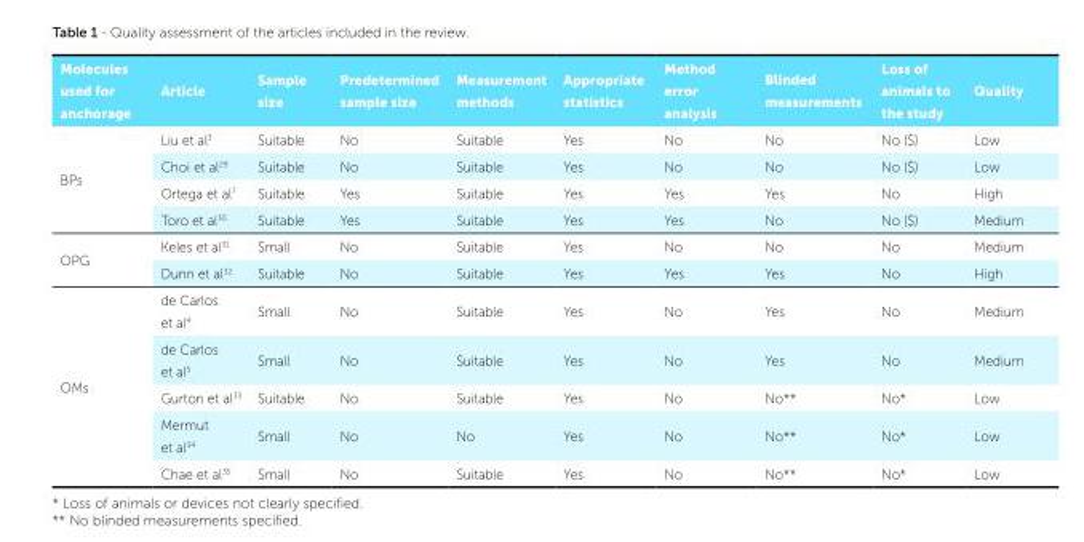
<table><thead><tr><td>Molecules used for anchorage</td><td>Article</td><td>Sample size</td><td>Predetermined sample size</td><td>Measurement methods</td><td>Appropriate statistics</td><td>Method error analysis</td><td>Blinded measurements</td><td>Loss of animals to the study</td><td>Quality</td></tr></thead><tbody><tr><td rowspan="4">BPs</td><td>Liu et al<sup>3</sup></td><td>Suitable</td><td>No</td><td>Suitable</td><td>Yes</td><td>No</td><td>No</td><td>No ($)</td><td>Low</td></tr><tr><td>Choi et al<sup>29</sup></td><td>Suitable</td><td>No</td><td>Suitable</td><td>Yes</td><td>No</td><td>No</td><td>No ($)</td><td>Low</td></tr><tr><td>Ortega et al<sup>7</sup></td><td>Suitable</td><td>Yes</td><td>Suitable</td><td>Yes</td><td>Yes</td><td>Yes</td><td>No</td><td>High</td></tr><tr><td>Toro et al<sup>30</sup></td><td>Suitable</td><td>Yes</td><td>Suitable</td><td>Yes</td><td>Yes</td><td>No</td><td>No ($)</td><td>Medium</td></tr><tr><td rowspan="2">OPG</td><td>Keles et al<sup>31</sup></td><td>Small</td><td>No</td><td>Suitable</td><td>Yes</td><td>No</td><td>No</td><td>No</td><td>Medium</td></tr><tr><td>Dunn et al<sup>32</sup></td><td>Suitable</td><td>No</td><td>Suitable</td><td>Yes</td><td>Yes</td><td>Yes</td><td>No</td><td>High</td></tr><tr><td rowspan="5">OMs</td><td>de Carlos et al<sup>4</sup></td><td>Small</td><td>No</td><td>Suitable</td><td>Yes</td><td>No</td><td>Yes</td><td>No</td><td>Medium</td></tr><tr><td>de Carlos et al<sup>5</sup></td><td>Small</td><td>No</td><td>Suitable</td><td>Yes</td><td>No</td><td>Yes</td><td>No</td><td>Medium</td></tr><tr><td>Gurton et al<sup>33</sup></td><td>Suitable</td><td>No</td><td>Suitable</td><td>Yes</td><td>No</td><td>No**</td><td>No*</td><td>Low</td></tr><tr><td>Mermut et al<sup>34</sup></td><td>Small</td><td>No</td><td>No</td><td>Yes</td><td>No</td><td>No**</td><td>No*</td><td>Low</td></tr><tr><td>Chae et al<sup>35</sup></td><td>Small</td><td>No</td><td>Suitable</td><td>Yes</td><td>No</td><td>No**</td><td>No*</td><td>Low</td></tr></tbody></table>